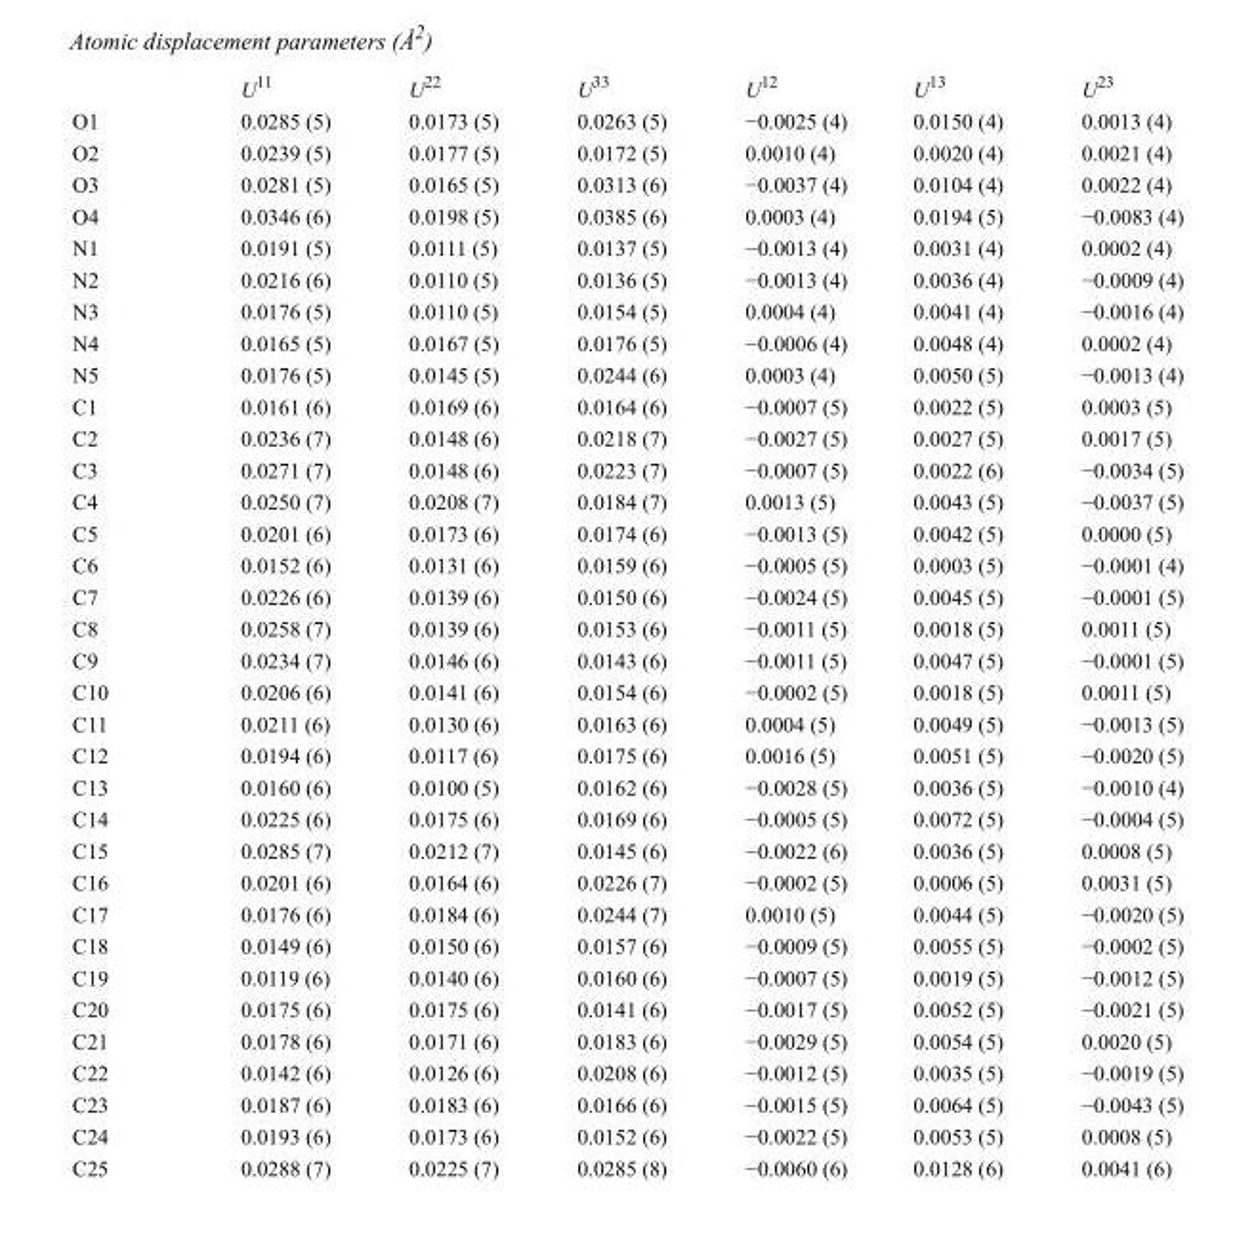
<table><thead><tr><td></td><td>U<sup>11</sup></td><td>U<sup>22</sup></td><td>U<sup>33</sup></td><td>U<sup>12</sup></td><td>U<sup>13</sup></td><td>U<sup>23</sup></td></tr></thead><tbody><tr><td>O1</td><td>0.0285 (5)</td><td>0.0173 (5)</td><td>0.0263 (5)</td><td>−0.0025 (4)</td><td>0.0150 (4)</td><td>0.0013 (4)</td></tr><tr><td>O2</td><td>0.0239 (5)</td><td>0.0177 (5)</td><td>0.0172 (5)</td><td>0.0010 (4)</td><td>0.0020 (4)</td><td>0.0021 (4)</td></tr><tr><td>O3</td><td>0.0281 (5)</td><td>0.0165 (5)</td><td>0.0313 (6)</td><td>−0.0037 (4)</td><td>0.0104 (4)</td><td>0.0022 (4)</td></tr><tr><td>O4</td><td>0.0346 (6)</td><td>0.0198 (5)</td><td>0.0385 (6)</td><td>0.0003 (4)</td><td>0.0194 (5)</td><td>−0.0083 (4)</td></tr><tr><td>N1</td><td>0.0191 (5)</td><td>0.0111 (5)</td><td>0.0137 (5)</td><td>−0.0013 (4)</td><td>0.0031 (4)</td><td>0.0002 (4)</td></tr><tr><td>N2</td><td>0.0216 (6)</td><td>0.0110 (5)</td><td>0.0136 (5)</td><td>−0.0013 (4)</td><td>0.0036 (4)</td><td>−0.0009 (4)</td></tr><tr><td>N3</td><td>0.0176 (5)</td><td>0.0110 (5)</td><td>0.0154 (5)</td><td>0.0004 (4)</td><td>0.0041 (4)</td><td>−0.0016 (4)</td></tr><tr><td>N4</td><td>0.0165 (5)</td><td>0.0167 (5)</td><td>0.0176 (5)</td><td>−0.0006 (4)</td><td>0.0048 (4)</td><td>0.0002 (4)</td></tr><tr><td>N5</td><td>0.0176 (5)</td><td>0.0145 (5)</td><td>0.0244 (6)</td><td>0.0003 (4)</td><td>0.0050 (5)</td><td>−0.0013 (4)</td></tr><tr><td>C1</td><td>0.0161 (6)</td><td>0.0169 (6)</td><td>0.0164 (6)</td><td>−0.0007 (5)</td><td>0.0022 (5)</td><td>0.0003 (5)</td></tr><tr><td>C2</td><td>0.0236 (7)</td><td>0.0148 (6)</td><td>0.0218 (7)</td><td>−0.0027 (5)</td><td>0.0027 (5)</td><td>0.0017 (5)</td></tr><tr><td>C3</td><td>0.0271 (7)</td><td>0.0148 (6)</td><td>0.0223 (7)</td><td>−0.0007 (5)</td><td>0.0022 (6)</td><td>−0.0034 (5)</td></tr><tr><td>C4</td><td>0.0250 (7)</td><td>0.0208 (7)</td><td>0.0184 (7)</td><td>0.0013 (5)</td><td>0.0043 (5)</td><td>−0.0037 (5)</td></tr><tr><td>C5</td><td>0.0201 (6)</td><td>0.0173 (6)</td><td>0.0174 (6)</td><td>−0.0013 (5)</td><td>0.0042 (5)</td><td>0.0000 (5)</td></tr><tr><td>C6</td><td>0.0152 (6)</td><td>0.0131 (6)</td><td>0.0159 (6)</td><td>−0.0005 (5)</td><td>0.0003 (5)</td><td>−0.0001 (4)</td></tr><tr><td>C7</td><td>0.0226 (6)</td><td>0.0139 (6)</td><td>0.0150 (6)</td><td>−0.0024 (5)</td><td>0.0045 (5)</td><td>−0.0001 (5)</td></tr><tr><td>C8</td><td>0.0258 (7)</td><td>0.0139 (6)</td><td>0.0153 (6)</td><td>−0.0011 (5)</td><td>0.0018 (5)</td><td>0.0011 (5)</td></tr><tr><td>C9</td><td>0.0234 (7)</td><td>0.0146 (6)</td><td>0.0143 (6)</td><td>−0.0011 (5)</td><td>0.0047 (5)</td><td>−0.0001 (5)</td></tr><tr><td>C10</td><td>0.0206 (6)</td><td>0.0141 (6)</td><td>0.0154 (6)</td><td>−0.0002 (5)</td><td>0.0018 (5)</td><td>0.0011 (5)</td></tr><tr><td>C11</td><td>0.0211 (6)</td><td>0.0130 (6)</td><td>0.0163 (6)</td><td>0.0004 (5)</td><td>0.0049 (5)</td><td>−0.0013 (5)</td></tr><tr><td>C12</td><td>0.0194 (6)</td><td>0.0117 (6)</td><td>0.0175 (6)</td><td>0.0016 (5)</td><td>0.0051 (5)</td><td>−0.0020 (5)</td></tr><tr><td>C13</td><td>0.0160 (6)</td><td>0.0100 (5)</td><td>0.0162 (6)</td><td>−0.0028 (5)</td><td>0.0036 (5)</td><td>−0.0010 (4)</td></tr><tr><td>C14</td><td>0.0225 (6)</td><td>0.0175 (6)</td><td>0.0169 (6)</td><td>−0.0005 (5)</td><td>0.0072 (5)</td><td>−0.0004 (5)</td></tr><tr><td>C15</td><td>0.0285 (7)</td><td>0.0212 (7)</td><td>0.0145 (6)</td><td>−0.0022 (6)</td><td>0.0036 (5)</td><td>0.0008 (5)</td></tr><tr><td>C16</td><td>0.0201 (6)</td><td>0.0164 (6)</td><td>0.0226 (7)</td><td>−0.0002 (5)</td><td>0.0006 (5)</td><td>0.0031 (5)</td></tr><tr><td>C17</td><td>0.0176 (6)</td><td>0.0184 (6)</td><td>0.0244 (7)</td><td>0.0010 (5)</td><td>0.0044 (5)</td><td>−0.0020 (5)</td></tr><tr><td>C18</td><td>0.0149 (6)</td><td>0.0150 (6)</td><td>0.0157 (6)</td><td>−0.0009 (5)</td><td>0.0055 (5)</td><td>−0.0002 (5)</td></tr><tr><td>C19</td><td>0.0119 (6)</td><td>0.0140 (6)</td><td>0.0160 (6)</td><td>−0.0007 (5)</td><td>0.0019 (5)</td><td>−0.0012 (5)</td></tr><tr><td>C20</td><td>0.0175 (6)</td><td>0.0175 (6)</td><td>0.0141 (6)</td><td>−0.0017 (5)</td><td>0.0052 (5)</td><td>−0.0021 (5)</td></tr><tr><td>C21</td><td>0.0178 (6)</td><td>0.0171 (6)</td><td>0.0183 (6)</td><td>−0.0029 (5)</td><td>0.0054 (5)</td><td>0.0020 (5)</td></tr><tr><td>C22</td><td>0.0142 (6)</td><td>0.0126 (6)</td><td>0.0208 (6)</td><td>−0.0012 (5)</td><td>0.0035 (5)</td><td>−0.0019 (5)</td></tr><tr><td>C23</td><td>0.0187 (6)</td><td>0.0183 (6)</td><td>0.0166 (6)</td><td>−0.0015 (5)</td><td>0.0064 (5)</td><td>−0.0043 (5)</td></tr><tr><td>C24</td><td>0.0193 (6)</td><td>0.0173 (6)</td><td>0.0152 (6)</td><td>−0.0022 (5)</td><td>0.0053 (5)</td><td>0.0008 (5)</td></tr><tr><td>C25</td><td>0.0288 (7)</td><td>0.0225 (7)</td><td>0.0285 (8)</td><td>−0.0060 (6)</td><td>0.0128 (6)</td><td>0.0041 (6)</td></tr></tbody></table>